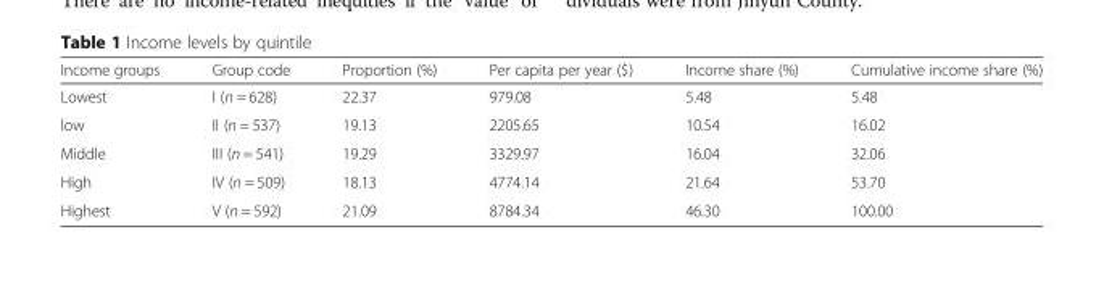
<table><thead><tr><td>Income groups</td><td>Group code</td><td>Proportion (%)</td><td>Per capita per year ($)</td><td>Income share (%)</td><td>Cumulative income share (%)</td></tr></thead><tbody><tr><td>Lowest</td><td>I (n = 628)</td><td>22.37</td><td>979.08</td><td>5.48</td><td>5.48</td></tr><tr><td>low</td><td>II (n = 537)</td><td>19.13</td><td>2205.65</td><td>10.54</td><td>16.02</td></tr><tr><td>Middle</td><td>III (n = 541)</td><td>19.29</td><td>3329.97</td><td>16.04</td><td>32.06</td></tr><tr><td>High</td><td>IV (n = 509)</td><td>18.13</td><td>4774.14</td><td>21.64</td><td>53.70</td></tr><tr><td>Highest</td><td>V (n = 592)</td><td>21.09</td><td>8784.34</td><td>46.30</td><td>100.00</td></tr></tbody></table>